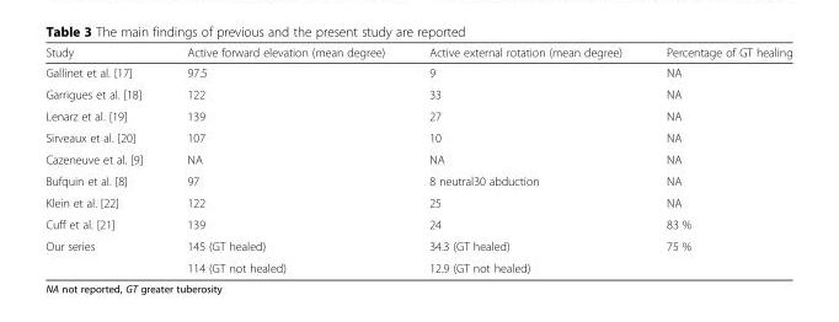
<table><thead><tr><td>Study</td><td>Active forward elevation (mean degree)</td><td>Active external rotation (mean degree)</td><td>Percentage of GT healing</td></tr></thead><tbody><tr><td>Gallinet et al. [17]</td><td>97.5</td><td>9</td><td>NA</td></tr><tr><td>Garrigues et al. [18]</td><td>122</td><td>33</td><td>NA</td></tr><tr><td>Lenarz et al. [19]</td><td>139</td><td>27</td><td>NA</td></tr><tr><td>Sirveaux et al. [20]</td><td>107</td><td>10</td><td>NA</td></tr><tr><td>Cazeneuve et al. [9]</td><td>NA</td><td>NA</td><td>NA</td></tr><tr><td>Bufquin et al. [8]</td><td>97</td><td>8 neutral30 abduction</td><td>NA</td></tr><tr><td>Klein et al. [22]</td><td>122</td><td>25</td><td>NA</td></tr><tr><td>Cuff et al. [21]</td><td>139</td><td>24</td><td>83 %</td></tr><tr><td rowspan="2">Our series</td><td>145 (GT healed)</td><td>34.3 (GT healed)</td><td>75 %</td></tr><tr><td>114 (GT not healed)</td><td>12.9 (GT not healed)</td><td></td></tr></tbody></table>